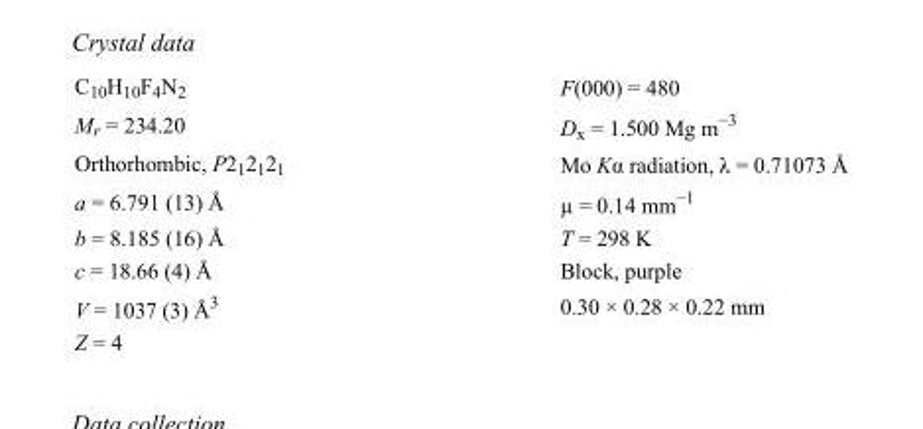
<table><tbody><tr><td>C<sub>10</sub>H<sub>10</sub>F<sub>4</sub>N<sub>2</sub></td><td>F(000) = 480</td></tr><tr><td>M<sub>r</sub> = 234.20</td><td>D<sub>x</sub> = 1.500 Mg m<sup>−3</sup></td></tr><tr><td>Orthorhombic, P2<sub>1</sub>2<sub>1</sub>2<sub>1</sub></td><td>Mo Kα radiation, λ = 0.71073 Å</td></tr><tr><td>a = 6.791 (13) Å</td><td>µ = 0.14 mm<sup>−1</sup></td></tr><tr><td>b = 8.185 (16) Å</td><td>T = 298 K</td></tr><tr><td>c = 18.66 (4) Å</td><td>Block, purple</td></tr><tr><td>V = 1037 (3) Å<sup>3</sup></td><td>0.30 × 0.28 × 0.22 mm</td></tr><tr><td>Z = 4</td><td></td></tr></tbody></table>